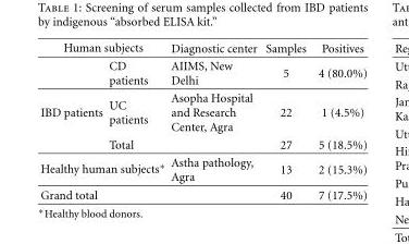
<table><tbody><tr><td colspan="2">Human subjects</td><td>Diagnostic center</td><td>Samples</td><td>Positives</td></tr><tr><td></td><td>CD patients</td><td>AIIMS, New Delhi</td><td>5</td><td>4 (80.0%)</td></tr><tr><td rowspan="2">IBD patients</td><td>UC patients</td><td>Asopha Hospital and Research Center, Agra</td><td>22</td><td>1 (4.5%)</td></tr><tr><td>Total</td><td></td><td>27</td><td>5 (18.5%)</td></tr><tr><td colspan="2">Healthy human subjects∗</td><td>Astha pathology, Agra</td><td>13</td><td>2 (15.3%)</td></tr><tr><td colspan="3">Grand total</td><td>40</td><td>7 (17.5%)</td></tr></tbody></table>